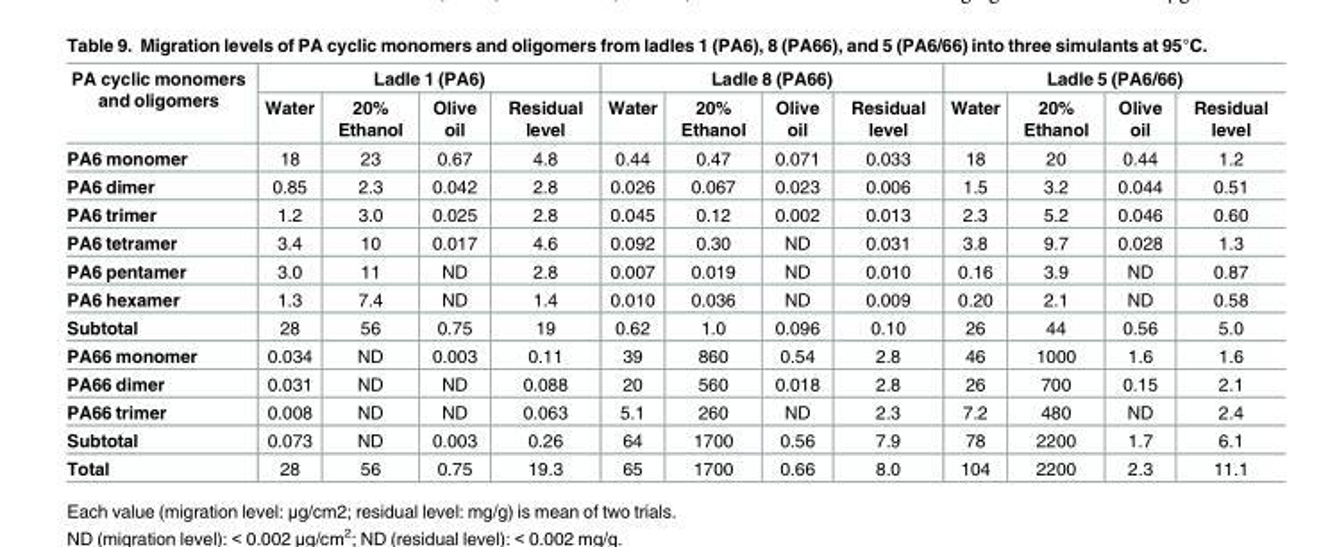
<table><thead><tr><td rowspan="2">PA cyclic monomers and oligomers</td><td colspan="4">Ladle 1 (PA6)</td><td colspan="4">Ladle 8 (PA66)</td><td colspan="4">Ladle 5 (PA6/66)</td></tr><tr><td>Water</td><td>20% Ethanol</td><td>Olive oil</td><td>Residual level</td><td>Water</td><td>20% Ethanol</td><td>Olive oil</td><td>Residual level</td><td>Water</td><td>20% Ethanol</td><td>Olive oil</td><td>Residual level</td></tr></thead><tbody><tr><td>PA6 monomer</td><td>18</td><td>23</td><td>0.67</td><td>4.8</td><td>0.44</td><td>0.47</td><td>0.071</td><td>0.033</td><td>18</td><td>20</td><td>0.44</td><td>1.2</td></tr><tr><td>PA6 dimer</td><td>0.85</td><td>2.3</td><td>0.042</td><td>2.8</td><td>0.026</td><td>0.067</td><td>0.023</td><td>0.006</td><td>1.5</td><td>3.2</td><td>0.044</td><td>0.51</td></tr><tr><td>PA6 trimer</td><td>1.2</td><td>3.0</td><td>0.025</td><td>2.8</td><td>0.045</td><td>0.12</td><td>0.002</td><td>0.013</td><td>2.3</td><td>5.2</td><td>0.046</td><td>0.60</td></tr><tr><td>PA6 tetramer</td><td>3.4</td><td>10</td><td>0.017</td><td>4.6</td><td>0.092</td><td>0.30</td><td>ND</td><td>0.031</td><td>3.8</td><td>9.7</td><td>0.028</td><td>1.3</td></tr><tr><td>PA6 pentamer</td><td>3.0</td><td>11</td><td>ND</td><td>2.8</td><td>0.007</td><td>0.019</td><td>ND</td><td>0.010</td><td>0.16</td><td>3.9</td><td>ND</td><td>0.87</td></tr><tr><td>PA6 hexamer</td><td>1.3</td><td>7.4</td><td>ND</td><td>1.4</td><td>0.010</td><td>0.036</td><td>ND</td><td>0.009</td><td>0.20</td><td>2.1</td><td>ND</td><td>0.58</td></tr><tr><td>Subtotal</td><td>28</td><td>56</td><td>0.75</td><td>19</td><td>0.62</td><td>1.0</td><td>0.096</td><td>0.10</td><td>26</td><td>44</td><td>0.56</td><td>5.0</td></tr><tr><td>PA66 monomer</td><td>0.034</td><td>ND</td><td>0.003</td><td>0.11</td><td>39</td><td>860</td><td>0.54</td><td>2.8</td><td>46</td><td>1000</td><td>1.6</td><td>1.6</td></tr><tr><td>PA66 dimer</td><td>0.031</td><td>ND</td><td>ND</td><td>0.088</td><td>20</td><td>560</td><td>0.018</td><td>2.8</td><td>26</td><td>700</td><td>0.15</td><td>2.1</td></tr><tr><td>PA66 trimer</td><td>0.008</td><td>ND</td><td>ND</td><td>0.063</td><td>5.1</td><td>260</td><td>ND</td><td>2.3</td><td>7.2</td><td>480</td><td>ND</td><td>2.4</td></tr><tr><td>Subtotal</td><td>0.073</td><td>ND</td><td>0.003</td><td>0.26</td><td>64</td><td>1700</td><td>0.56</td><td>7.9</td><td>78</td><td>2200</td><td>1.7</td><td>6.1</td></tr><tr><td>Total</td><td>28</td><td>56</td><td>0.75</td><td>19.3</td><td>65</td><td>1700</td><td>0.66</td><td>8.0</td><td>104</td><td>2200</td><td>2.3</td><td>11.1</td></tr></tbody></table>